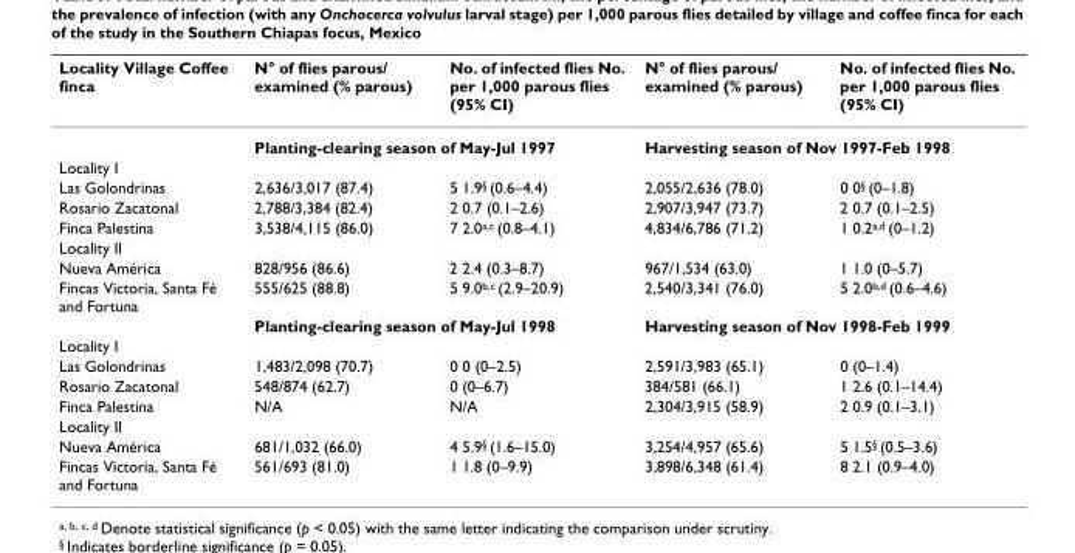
<table><thead><tr><td>Locality Village Coffee finca</td><td>N° of flies parous/ examined (% parous)</td><td>No. of infected flies No. per 1,000 parous flies (95% CI)</td><td>N° of flies parous/ examined (% parous)</td><td>No. of infected flies No. per 1,000 parous flies (95% CI)</td></tr></thead><tbody><tr><td></td><td colspan="2">Planting-clearing season of May-Jul 1997</td><td colspan="2">Harvesting season of Nov 1997-Feb 1998</td></tr><tr><td colspan="5">Locality I</td></tr><tr><td>Las Golondrinas</td><td>2,636/3,017 (87.4)</td><td>5 1.9<sup>§</sup> (0.6–4.4)</td><td>2,055/2,636 (78.0)</td><td>0 0<sup>§</sup> (0–1.8)</td></tr><tr><td>Rosario Zacatonal</td><td>2,788/3,384 (82.4)</td><td>2 0.7 (0.1–2.6)</td><td>2,907/3,947 (73.7)</td><td>2 0.7 (0.1–2.5)</td></tr><tr><td>Finca Palestina</td><td>3,538/4,115 (86.0)</td><td>7 2.0<sup>a,c</sup> (0.8–4.1)</td><td>4,834/6,786 (71.2)</td><td>1 0.2<sup>a,d</sup> (0–1.2)</td></tr><tr><td colspan="5">Locality II</td></tr><tr><td>Nueva América</td><td>828/956 (86.6)</td><td>2 2.4 (0.3–8.7)</td><td>967/1,534 (63.0)</td><td>1 1.0 (0–5.7)</td></tr><tr><td rowspan="2">Fincas Victoria, Santa Fé and Fortuna</td><td>555/625 (88.8)</td><td>5 9.0<sup>b,c</sup> (2.9–20.9)</td><td>2,540/3,341 (76.0)</td><td>5 2.0<sup>b,d</sup> (0.6–4.6)</td></tr><tr><td colspan="2">Planting-clearing season of May-Jul 1998</td><td colspan="2">Harvesting season of Nov 1998-Feb 1999</td></tr><tr><td colspan="5">Locality I</td></tr><tr><td>Las Golondrinas</td><td>1,483/2,098 (70.7)</td><td>0 0 (0–2.5)</td><td>2,591/3,983 (65.1)</td><td>0 (0–1.4)</td></tr><tr><td>Rosario Zacatonal</td><td>548/874 (62.7)</td><td>0 (0–6.7)</td><td>384/581 (66.1)</td><td>1 2.6 (0.1–14.4)</td></tr><tr><td>Finca Palestina</td><td>N/A</td><td>N/A</td><td>2,304/3,915 (58.9)</td><td>2 0.9 (0.1–3.1)</td></tr><tr><td colspan="5">Locality II</td></tr><tr><td>Nueva América</td><td>681/1,032 (66.0)</td><td>4 5.9<sup>§</sup> (1.6–15.0)</td><td>3,254/4,957 (65.6)</td><td>5 1.5<sup>§</sup> (0.5–3.6)</td></tr><tr><td>Fincas Victoria, Santa Fé and Fortuna</td><td>561/693 (81.0)</td><td>1 1.8 (0–9.9)</td><td>3,898/6,348 (61.4)</td><td>8 2.1 (0.9–4.0)</td></tr></tbody></table>